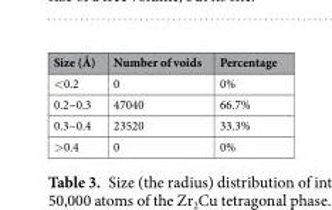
<table><thead><tr><td>Size (Å)</td><td>Number of voids</td><td>Percentage</td></tr></thead><tbody><tr><td>&lt;0.2</td><td>0</td><td>0%</td></tr><tr><td>0.2~0.3</td><td>47040</td><td>66.7%</td></tr><tr><td>0.3~0.4</td><td>23520</td><td>33.3%</td></tr><tr><td>&gt;0.4</td><td>0</td><td>0%</td></tr></tbody></table>